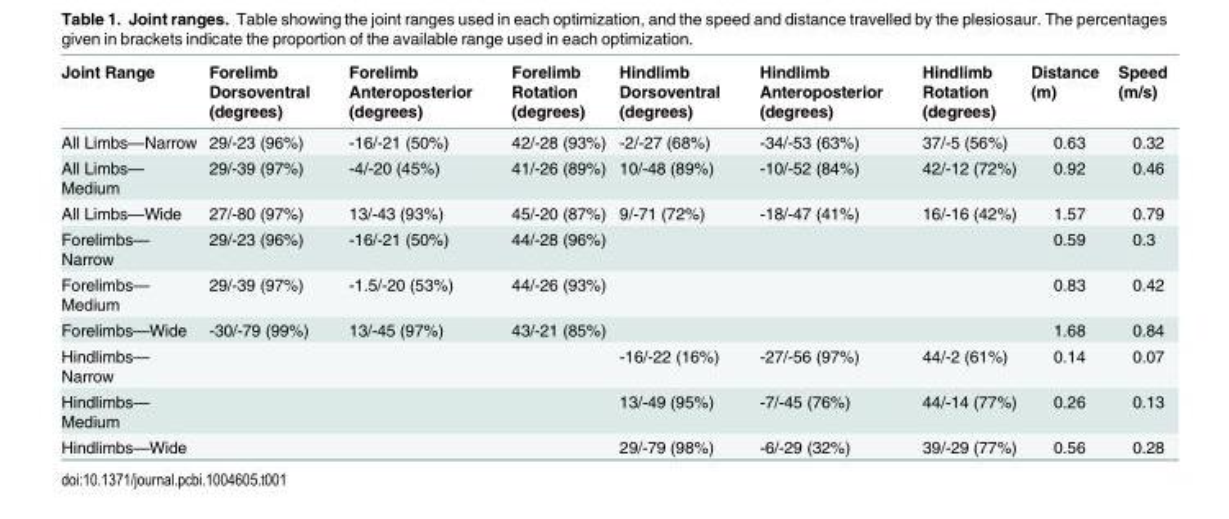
<table><thead><tr><td>Joint Range</td><td>Forelimb Dorsoventral (degrees)</td><td>Forelimb Anteroposterior (degrees)</td><td>Forelimb Rotation (degrees)</td><td>Hindlimb Dorsoventral (degrees)</td><td>Hindlimb Anteroposterior (degrees)</td><td>Hindlimb Rotation (degrees)</td><td>Distance (m)</td><td>Speed (m/s)</td></tr></thead><tbody><tr><td>All Limbs—Narrow</td><td>29/-23 (96%)</td><td>-16/-21 (50%)</td><td>42/-28 (93%)</td><td>-2/-27 (68%)</td><td>-34/-53 (63%)</td><td>37/-5 (56%)</td><td>0.63</td><td>0.32</td></tr><tr><td>All Limbs— Medium</td><td>29/-39 (97%)</td><td>-4/-20 (45%)</td><td>41/-26 (89%)</td><td>10/-48 (89%)</td><td>-10/-52 (84%)</td><td>42/-12 (72%)</td><td>0.92</td><td>0.46</td></tr><tr><td>All Limbs—Wide</td><td>27/-80 (97%)</td><td>13/-43 (93%)</td><td>45/-20 (87%)</td><td>9/-71 (72%)</td><td>-18/-47 (41%)</td><td>16/-16 (42%)</td><td>1.57</td><td>0.79</td></tr><tr><td>Forelimbs— Narrow</td><td>29/-23 (96%)</td><td>-16/-21 (50%)</td><td>44/-28 (96%)</td><td></td><td></td><td></td><td>0.59</td><td>0.3</td></tr><tr><td>Forelimbs— Medium</td><td>29/-39 (97%)</td><td>-1.5/-20 (53%)</td><td>44/-26 (93%)</td><td></td><td></td><td></td><td>0.83</td><td>0.42</td></tr><tr><td>Forelimbs—Wide</td><td>-30/-79 (99%)</td><td>13/-45 (97%)</td><td>43/-21 (85%)</td><td></td><td></td><td></td><td>1.68</td><td>0.84</td></tr><tr><td>Hindlimbs— Narrow</td><td></td><td></td><td></td><td>-16/-22 (16%)</td><td>-27/-56 (97%)</td><td>44/-2 (61%)</td><td>0.14</td><td>0.07</td></tr><tr><td>Hindlimbs— Medium</td><td></td><td></td><td></td><td>13/-49 (95%)</td><td>-7/-45 (76%)</td><td>44/-14 (77%)</td><td>0.26</td><td>0.13</td></tr><tr><td>Hindlimbs—Wide</td><td></td><td></td><td></td><td>29/-79 (98%)</td><td>-6/-29 (32%)</td><td>39/-29 (77%)</td><td>0.56</td><td>0.28</td></tr></tbody></table>